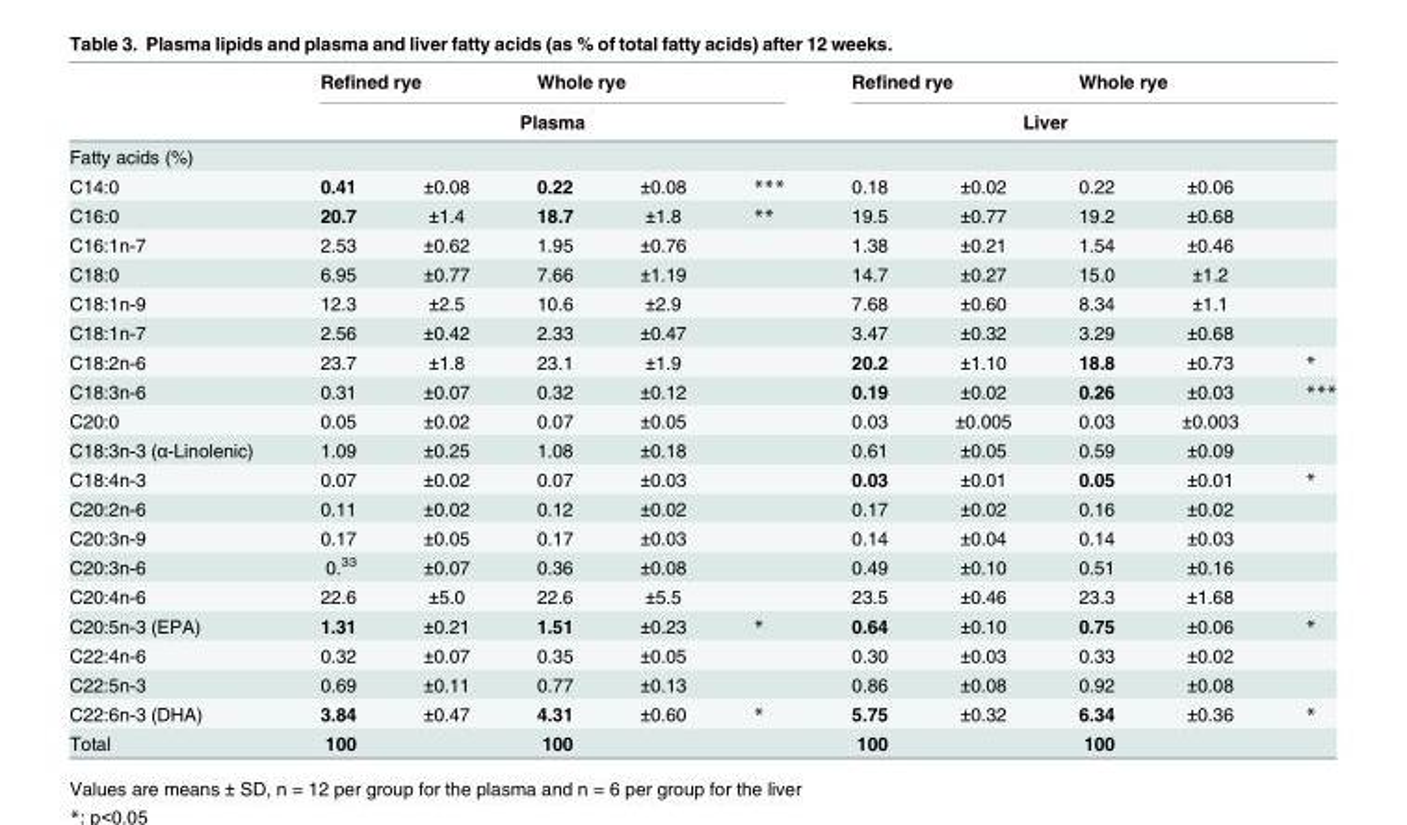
<table><thead><tr><td rowspan="3">Fatty acids (%)</td><td colspan="2">Refined rye</td><td colspan="3">Whole rye</td><td colspan="2">Refined rye</td><td colspan="3">Whole rye</td></tr><tr><td colspan="5">Plasma</td><td colspan="4">Liver</td><td rowspan="2"></td></tr><tr><td></td><td></td><td></td><td></td><td></td><td></td><td></td><td></td><td></td></tr></thead><tbody><tr><td>C14:0</td><td>0.41</td><td>±0.08</td><td>0.22</td><td>±0.08</td><td>***</td><td>0.18</td><td>±0.02</td><td>0.22</td><td>±0.06</td><td></td></tr><tr><td>C16:0</td><td>20.7</td><td>±1.4</td><td>18.7</td><td>±1.8</td><td>**</td><td>19.5</td><td>±0.77</td><td>19.2</td><td>±0.68</td><td></td></tr><tr><td>C16:1n-7</td><td>2.53</td><td>±0.62</td><td>1.95</td><td>±0.76</td><td></td><td>1.38</td><td>±0.21</td><td>1.54</td><td>±0.46</td><td></td></tr><tr><td>C18:0</td><td>6.95</td><td>±0.77</td><td>7.66</td><td>±1.19</td><td></td><td>14.7</td><td>±0.27</td><td>15.0</td><td>±1.2</td><td></td></tr><tr><td>C18:1n-9</td><td>12.3</td><td>±2.5</td><td>10.6</td><td>±2.9</td><td></td><td>7.68</td><td>±0.60</td><td>8.34</td><td>±1.1</td><td></td></tr><tr><td>C18:1n-7</td><td>2.56</td><td>±0.42</td><td>2.33</td><td>±0.47</td><td></td><td>3.47</td><td>±0.32</td><td>3.29</td><td>±0.68</td><td></td></tr><tr><td>C18:2n-6</td><td>23.7</td><td>±1.8</td><td>23.1</td><td>±1.9</td><td></td><td>20.2</td><td>±1.10</td><td>18.8</td><td>±0.73</td><td>*</td></tr><tr><td>C18:3n-6</td><td>0.31</td><td>±0.07</td><td>0.32</td><td>±0.12</td><td></td><td>0.19</td><td>±0.02</td><td>0.26</td><td>±0.03</td><td>***</td></tr><tr><td>C20:0</td><td>0.05</td><td>±0.02</td><td>0.07</td><td>±0.05</td><td></td><td>0.03</td><td>±0.005</td><td>0.03</td><td>±0.003</td><td></td></tr><tr><td>C18:3n-3 (α-Linolenic)</td><td>1.09</td><td>±0.25</td><td>1.08</td><td>±0.18</td><td></td><td>0.61</td><td>±0.05</td><td>0.59</td><td>±0.09</td><td></td></tr><tr><td>C18:4n-3</td><td>0.07</td><td>±0.02</td><td>0.07</td><td>±0.03</td><td></td><td>0.03</td><td>±0.01</td><td>0.05</td><td>±0.01</td><td>*</td></tr><tr><td>C20:2n-6</td><td>0.11</td><td>±0.02</td><td>0.12</td><td>±0.02</td><td></td><td>0.17</td><td>±0.02</td><td>0.16</td><td>±0.02</td><td></td></tr><tr><td>C20:3n-9</td><td>0.17</td><td>±0.05</td><td>0.17</td><td>±0.03</td><td></td><td>0.14</td><td>±0.04</td><td>0.14</td><td>±0.03</td><td></td></tr><tr><td>C20:3n-6</td><td>0.<sup>33</sup></td><td>±0.07</td><td>0.36</td><td>±0.08</td><td></td><td>0.49</td><td>±0.10</td><td>0.51</td><td>±0.16</td><td></td></tr><tr><td>C20:4n-6</td><td>22.6</td><td>±5.0</td><td>22.6</td><td>±5.5</td><td></td><td>23.5</td><td>±0.46</td><td>23.3</td><td>±1.68</td><td></td></tr><tr><td>C20:5n-3 (EPA)</td><td>1.31</td><td>±0.21</td><td>1.51</td><td>±0.23</td><td>*</td><td>0.64</td><td>±0.10</td><td>0.75</td><td>±0.06</td><td>*</td></tr><tr><td>C22:4n-6</td><td>0.32</td><td>±0.07</td><td>0.35</td><td>±0.05</td><td></td><td>0.30</td><td>±0.03</td><td>0.33</td><td>±0.02</td><td></td></tr><tr><td>C22:5n-3</td><td>0.69</td><td>±0.11</td><td>0.77</td><td>±0.13</td><td></td><td>0.86</td><td>±0.08</td><td>0.92</td><td>±0.08</td><td></td></tr><tr><td>C22:6n-3 (DHA)</td><td>3.84</td><td>±0.47</td><td>4.31</td><td>±0.60</td><td>*</td><td>5.75</td><td>±0.32</td><td>6.34</td><td>±0.36</td><td>*</td></tr><tr><td>Total</td><td>100</td><td></td><td>100</td><td></td><td></td><td>100</td><td></td><td>100</td><td></td><td></td></tr></tbody></table>